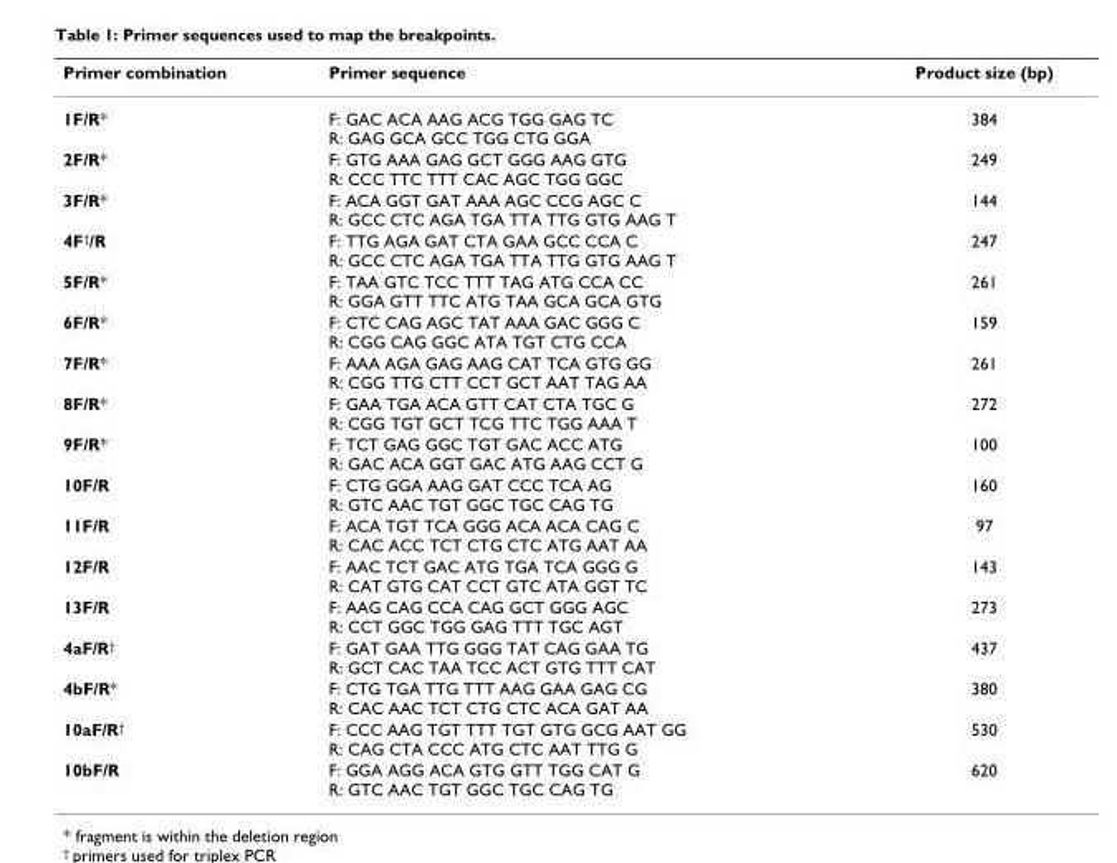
<table><thead><tr><td>Primer combination</td><td>Primer sequence</td><td>Product size (bp)</td></tr></thead><tbody><tr><td>1F/R*</td><td>F: GAC ACA AAG ACG TGG GAG TC R: GAG GCA GCC TGG CTG GGA</td><td>384</td></tr><tr><td>2F/R*</td><td>F: GTG AAA GAG GCT GGG AAG GTG R: CCC TTC TTT CAC AGC TGG GGC</td><td>249</td></tr><tr><td>3F/R*</td><td>F: ACA GGT GAT AAA AGC CCG AGC C R: GCC CTC AGA TGA TTA TTG GTG AAG T</td><td>144</td></tr><tr><td>4F<sup>†</sup>/R</td><td>F: TTG AGA GAT CTA GAA GCC CCA C R: GCC CTC AGA TGA TTA TTG GTG AAG T</td><td>247</td></tr><tr><td>5F/R*</td><td>F: TAA GTC TCC TTT TAG ATG CCA CC R: GGA GTT TTC ATG TAA GCA GCA GTG</td><td>261</td></tr><tr><td>6F/R*</td><td>F: CTC CAG AGC TAT AAA GAC GGG C R: CGG CAG GGC ATA TGT CTG CCA</td><td>159</td></tr><tr><td>7F/R*</td><td>F: AAA AGA GAG AAG CAT TCA GTG GG R: CGG TTG CTT CCT GCT AAT TAG AA</td><td>261</td></tr><tr><td>8F/R*</td><td>F: GAA TGA ACA GTT CAT CTA TGC G R: CGG TGT GCT TCG TTC TGG AAA T</td><td>272</td></tr><tr><td>9F/R*</td><td>F: TCT GAG GGC TGT GAC ACC ATG R: GAC ACA GGT GAC ATG AAG CCT G</td><td>100</td></tr><tr><td>10F/R</td><td>F: CTG GGA AAG GAT CCC TCA AG R: GTC AAC TGT GGC TGC CAG TG</td><td>160</td></tr><tr><td>11F/R</td><td>F: ACA TGT TCA GGG ACA ACA CAG C R: CAC ACC TCT CTG CTC ATG AAT AA</td><td>97</td></tr><tr><td>12F/R</td><td>F: AAC TCT GAC ATG TGA TCA GGG G R: CAT GTG CAT CCT GTC ATA GGT TC</td><td>143</td></tr><tr><td>13F/R</td><td>F: AAG CAG CCA CAG GCT GGG AGC R: CCT GGC TGG GAG TTT TGC AGT</td><td>273</td></tr><tr><td>4aF/R<sup>†</sup></td><td>F: GAT GAA TTG GGG TAT CAG GAA TG R: GCT CAC TAA TCC ACT GTG TTT CAT</td><td>437</td></tr><tr><td>4bF/R*</td><td>F: CTG TGA TTG TTT AAG GAA GAG CG R: CAC AAC TCT CTG CTC ACA GAT AA</td><td>380</td></tr><tr><td>10aF/R<sup>†</sup></td><td>F: CCC AAG TGT TTT TGT GTG GCG AAT GG R: CAG CTA CCC ATG CTC AAT TTG G</td><td>530</td></tr><tr><td>10bF/R</td><td>F: GGA AGG ACA GTG GTT TGG CAT G R: GTC AAC TGT GGC TGC CAG TG</td><td>620</td></tr></tbody></table>